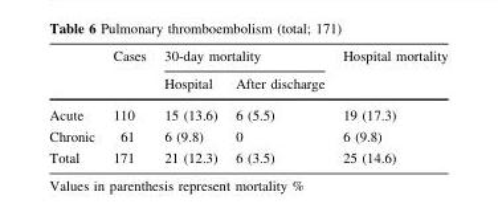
<table><thead><tr><td rowspan="2"></td><td rowspan="2">Cases</td><td colspan="2">30-day mortality</td><td rowspan="2">Hospital mortality</td></tr><tr><td>Hospital</td><td>After discharge</td></tr></thead><tbody><tr><td>Acute</td><td>110</td><td>15 (13.6)</td><td>6 (5.5)</td><td>19 (17.3)</td></tr><tr><td>Chronic</td><td>61</td><td>6 (9.8)</td><td>0</td><td>6 (9.8)</td></tr><tr><td>Total</td><td>171</td><td>21 (12.3)</td><td>6 (3.5)</td><td>25 (14.6)</td></tr></tbody></table>